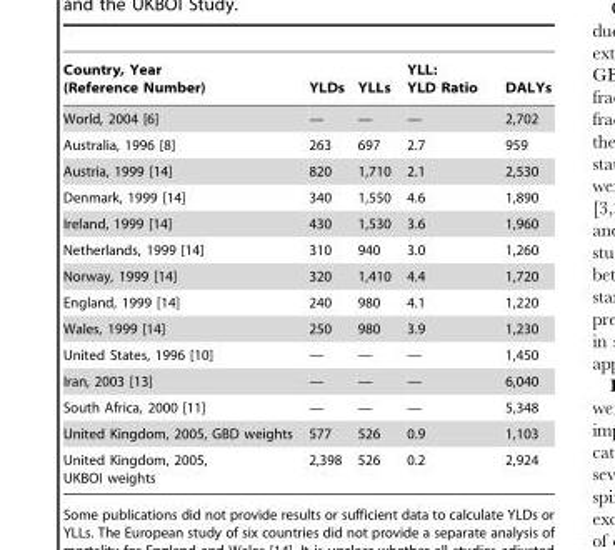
<table><thead><tr><td>Country, Year (Reference Number)</td><td>YLDs</td><td>YLLs</td><td>YLL: YLD Ratio</td><td>DALYs</td></tr></thead><tbody><tr><td>World, 2004 [6]</td><td>—</td><td>—</td><td>—</td><td>2,702</td></tr><tr><td>Australia, 1996 [8]</td><td>263</td><td>697</td><td>2.7</td><td>959</td></tr><tr><td>Austria, 1999 [14]</td><td>820</td><td>1,710</td><td>2.1</td><td>2,530</td></tr><tr><td>Denmark, 1999 [14]</td><td>340</td><td>1,550</td><td>4.6</td><td>1,890</td></tr><tr><td>Ireland, 1999 [14]</td><td>430</td><td>1,530</td><td>3.6</td><td>1,960</td></tr><tr><td>Netherlands, 1999 [14]</td><td>310</td><td>940</td><td>3.0</td><td>1,260</td></tr><tr><td>Norway, 1999 [14]</td><td>320</td><td>1,410</td><td>4.4</td><td>1,720</td></tr><tr><td>England, 1999 [14]</td><td>240</td><td>980</td><td>4.1</td><td>1,220</td></tr><tr><td>Wales, 1999 [14]</td><td>250</td><td>980</td><td>3.9</td><td>1,230</td></tr><tr><td>United States, 1996 [10]</td><td>—</td><td>—</td><td>—</td><td>1,450</td></tr><tr><td>Iran, 2003 [13]</td><td>—</td><td>—</td><td>—</td><td>6,040</td></tr><tr><td>South Africa, 2000 [11]</td><td>—</td><td>—</td><td>—</td><td>5,348</td></tr><tr><td>United Kingdom, 2005, GBD weights</td><td>577</td><td>526</td><td>0.9</td><td>1,103</td></tr><tr><td>United Kingdom, 2005, UKBOI weights</td><td>2,398</td><td>526</td><td>0.2</td><td>2,924</td></tr></tbody></table>